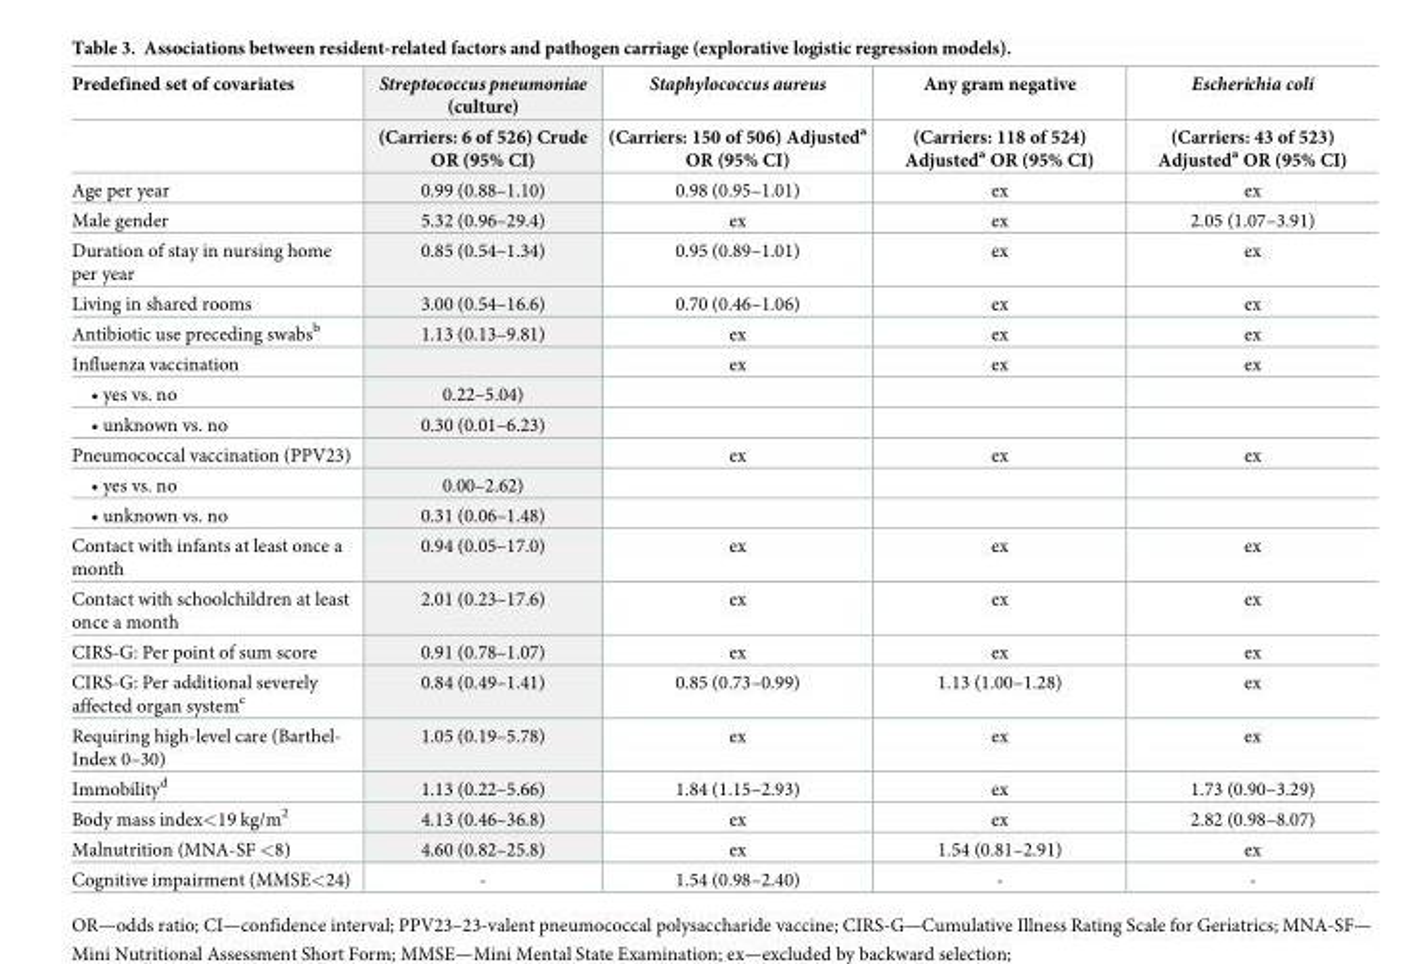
<table><thead><tr><td rowspan="2">Predefined set of covariates</td><td rowspan="2">Streptococcus pneumoniae (culture) (Carriers: 6 of 526) Crude OR (95% CI)</td><td rowspan="2">Staphylococcus aureus (Carriers: 150 of 506) Adjusted<sup>a</sup> OR (95% CI)</td><td rowspan="2">Any gram negative (Carriers: 118 of 524) Adjusted<sup>a</sup> OR (95% CI)</td><td rowspan="2">Escherichia coli (Carriers: 43 of 523) Adjusted<sup>a</sup> OR (95% CI)</td></tr><tr></tr></thead><tbody><tr><td>Age per year</td><td>0.99 (0.88–1.10)</td><td>0.98 (0.95–1.01)</td><td>ex</td><td>ex</td></tr><tr><td>Male gender</td><td>5.32 (0.96–29.4)</td><td>ex</td><td>ex</td><td>2.05 (1.07–3.91)</td></tr><tr><td>Duration of stay in nursing home per year</td><td>0.85 (0.54–1.34)</td><td>0.95 (0.89–1.01)</td><td>ex</td><td>ex</td></tr><tr><td>Living in shared rooms</td><td>3.00 (0.54–16.6)</td><td>0.70 (0.46–1.06)</td><td>ex</td><td>ex</td></tr><tr><td>Antibiotic use preceding swabs<sup>b</sup></td><td>1.13 (0.13–9.81)</td><td>ex</td><td>ex</td><td>ex</td></tr><tr><td>Influenza vaccination</td><td></td><td>ex</td><td>ex</td><td>ex</td></tr><tr><td>• yes vs. no</td><td>0.22–5.04)</td><td></td><td></td><td></td></tr><tr><td>• unknown vs. no</td><td>0.30 (0.01–6.23)</td><td></td><td></td><td></td></tr><tr><td>Pneumococcal vaccination (PPV23)</td><td></td><td>ex</td><td>ex</td><td>ex</td></tr><tr><td>• yes vs. no</td><td>0.00–2.62)</td><td></td><td></td><td></td></tr><tr><td>• unknown vs. no</td><td>0.31 (0.06–1.48)</td><td></td><td></td><td></td></tr><tr><td>Contact with infants at least once a month</td><td>0.94 (0.05–17.0)</td><td>ex</td><td>ex</td><td>ex</td></tr><tr><td>Contact with schoolchildren at least once a month</td><td>2.01 (0.23–17.6)</td><td>ex</td><td>ex</td><td>ex</td></tr><tr><td>CIRS-G: Per point of sum score</td><td>0.91 (0.78–1.07)</td><td>ex</td><td>ex</td><td>ex</td></tr><tr><td>CIRS-G: Per additional severely affected organ system<sup>c</sup></td><td>0.84 (0.49–1.41)</td><td>0.85 (0.73–0.99)</td><td>1.13 (1.00–1.28)</td><td>ex</td></tr><tr><td>Requiring high-level care (Barthel- Index 0–30)</td><td>1.05 (0.19–5.78)</td><td>ex</td><td>ex</td><td>ex</td></tr><tr><td>Immobility<sup>d</sup></td><td>1.13 (0.22–5.66)</td><td>1.84 (1.15–2.93)</td><td>ex</td><td>1.73 (0.90–3.29)</td></tr><tr><td>Body mass index&lt;19 kg/m<sup>2</sup></td><td>4.13 (0.46–36.8)</td><td>ex</td><td>ex</td><td>2.82 (0.98–8.07)</td></tr><tr><td>Malnutrition (MNA-SF &lt;8)</td><td>4.60 (0.82–25.8)</td><td>ex</td><td>1.54 (0.81–2.91)</td><td>ex</td></tr><tr><td>Cognitive impairment (MMSE&lt;24)</td><td>-</td><td>1.54 (0.98–2.40)</td><td>-</td><td>-</td></tr></tbody></table>